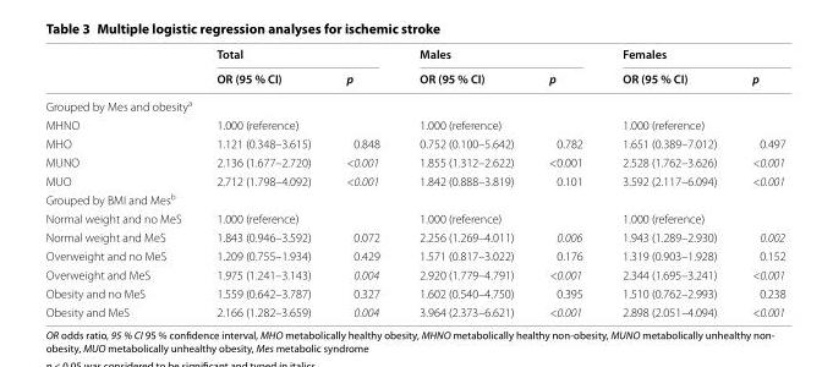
<table><thead><tr><td rowspan="2"></td><td colspan="2">Total</td><td colspan="2">Males</td><td colspan="2">Females</td></tr><tr><td>OR (95 % CI)</td><td>p</td><td>OR (95 % CI)</td><td>p</td><td>OR (95 % CI)</td><td>p</td></tr></thead><tbody><tr><td colspan="7">Grouped by Mes and obesity<sup>a</sup></td></tr><tr><td>MHNO</td><td>1.000 (reference)</td><td></td><td>1.000 (reference)</td><td></td><td>1.000 (reference)</td><td></td></tr><tr><td>MHO</td><td>1.121 (0.348–3.615)</td><td>0.848</td><td>0.752 (0.100–5.642)</td><td>0.782</td><td>1.651 (0.389–7.012)</td><td>0.497</td></tr><tr><td>MUNO</td><td>2.136 (1.677–2.720)</td><td>&lt;0.001</td><td>1.855 (1.312–2.622)</td><td>&lt;0.001</td><td>2.528 (1.762–3.626)</td><td>&lt;0.001</td></tr><tr><td>MUO</td><td>2.712 (1.798–4.092)</td><td>&lt;0.001</td><td>1.842 (0.888–3.819)</td><td>0.101</td><td>3.592 (2.117–6.094)</td><td>&lt;0.001</td></tr><tr><td colspan="7">Grouped by BMI and Mes<sup>b</sup></td></tr><tr><td>Normal weight and no MeS</td><td>1.000 (reference)</td><td></td><td>1.000 (reference)</td><td></td><td>1.000 (reference)</td><td></td></tr><tr><td>Normal weight and MeS</td><td>1.843 (0.946–3.592)</td><td>0.072</td><td>2.256 (1.269–4.011)</td><td>0.006</td><td>1.943 (1.289–2.930)</td><td>0.002</td></tr><tr><td>Overweight and no MeS</td><td>1.209 (0.755–1.934)</td><td>0.429</td><td>1.571 (0.817–3.022)</td><td>0.176</td><td>1.319 (0.903–1.928)</td><td>0.152</td></tr><tr><td>Overweight and MeS</td><td>1.975 (1.241–3.143)</td><td>0.004</td><td>2.920 (1.779–4.791)</td><td>&lt;0.001</td><td>2.344 (1.695–3.241)</td><td>&lt;0.001</td></tr><tr><td>Obesity and no MeS</td><td>1.559 (0.642–3.787)</td><td>0.327</td><td>1.602 (0.540–4.750)</td><td>0.395</td><td>1.510 (0.762–2.993)</td><td>0.238</td></tr><tr><td>Obesity and MeS</td><td>2.166 (1.282–3.659)</td><td>0.004</td><td>3.964 (2.373–6.621)</td><td>&lt;0.001</td><td>2.898 (2.051–4.094)</td><td>&lt;0.001</td></tr></tbody></table>